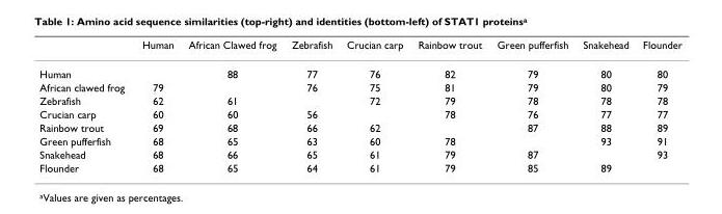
<table><thead><tr><td></td><td>Human</td><td>African Clawed frog</td><td>Zebrafish</td><td>Crucian carp</td><td>Rainbow trout</td><td>Green pufferfish</td><td>Snakehead</td><td>Flounder</td></tr></thead><tbody><tr><td>Human</td><td></td><td>88</td><td>77</td><td>76</td><td>82</td><td>79</td><td>80</td><td>80</td></tr><tr><td>African clawed frog</td><td>79</td><td></td><td>76</td><td>75</td><td>81</td><td>79</td><td>80</td><td>79</td></tr><tr><td>Zebrafish</td><td>62</td><td>61</td><td></td><td>72</td><td>79</td><td>78</td><td>78</td><td>78</td></tr><tr><td>Crucian carp</td><td>60</td><td>60</td><td>56</td><td></td><td>78</td><td>76</td><td>77</td><td>77</td></tr><tr><td>Rainbow trout</td><td>69</td><td>68</td><td>66</td><td>62</td><td></td><td>87</td><td>88</td><td>89</td></tr><tr><td>Green pufferfish</td><td>68</td><td>65</td><td>63</td><td>60</td><td>78</td><td></td><td>93</td><td>91</td></tr><tr><td>Snakehead</td><td>68</td><td>66</td><td>65</td><td>61</td><td>79</td><td>87</td><td></td><td>93</td></tr><tr><td>Flounder</td><td>68</td><td>65</td><td>64</td><td>61</td><td>79</td><td>85</td><td>89</td><td></td></tr></tbody></table>